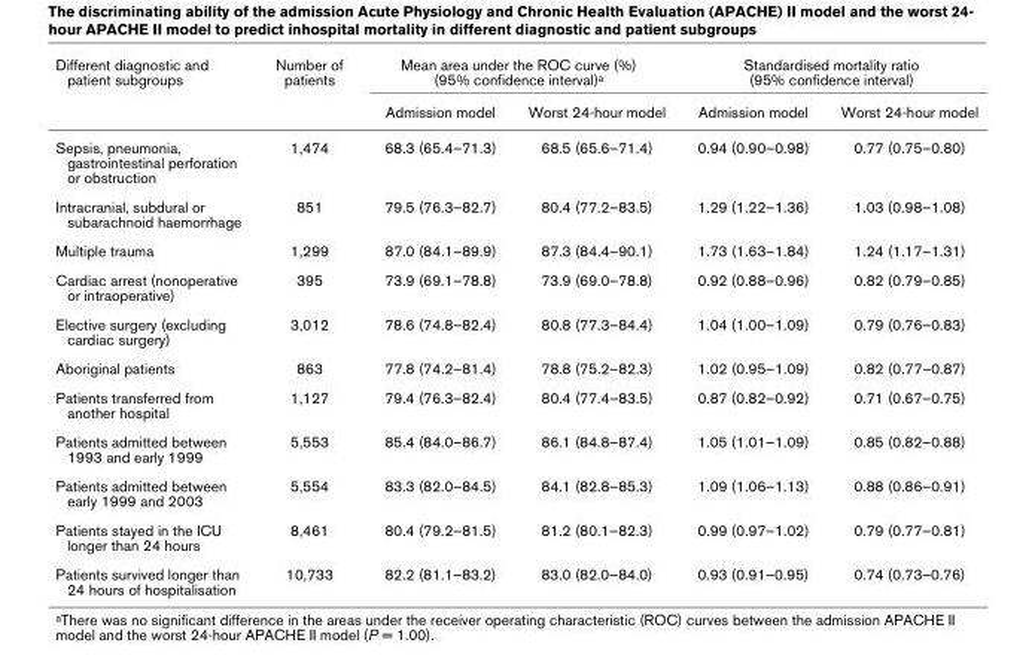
<table><thead><tr><td rowspan="2">Different diagnostic and patient subgroups</td><td rowspan="2">Number of patients</td><td colspan="2">Mean area under the ROC curve (%) (95% confidence interval)a</td><td colspan="2">Standardised mortality ratio (95% confidence interval)</td></tr><tr><td>Admission model</td><td>Worst 24-hour model</td><td>Admission model</td><td>Worst 24-hour model</td></tr></thead><tbody><tr><td>Sepsis, pneumonia, gastrointestinal perforation or obstruction</td><td>1,474</td><td>68.3 (65.4–71.3)</td><td>68.5 (65.6–71.4)</td><td>0.94 (0.90–0.98)</td><td>0.77 (0.75–0.80)</td></tr><tr><td>Intracranial, subdural or subarachnoid haemorrhage</td><td>851</td><td>79.5 (76.3–82.7)</td><td>80.4 (77.2–83.5)</td><td>1.29 (1.22–1.36)</td><td>1.03 (0.98–1.08)</td></tr><tr><td>Multiple trauma</td><td>1,299</td><td>87.0 (84.1–89.9)</td><td>87.3 (84.4–90.1)</td><td>1.73 (1.63–1.84)</td><td>1.24 (1.17–1.31)</td></tr><tr><td>Cardiac arrest (nonoperative or intraoperative)</td><td>395</td><td>73.9 (69.1–78.8)</td><td>73.9 (69.0–78.8)</td><td>0.92 (0.88–0.96)</td><td>0.82 (0.79–0.85)</td></tr><tr><td>Elective surgery (excluding cardiac surgery)</td><td>3,012</td><td>78.6 (74.8–82.4)</td><td>80.8 (77.3–84.4)</td><td>1.04 (1.00–1.09)</td><td>0.79 (0.76–0.83)</td></tr><tr><td>Aboriginal patients</td><td>863</td><td>77.8 (74.2–81.4)</td><td>78.8 (75.2–82.3)</td><td>1.02 (0.95–1.09)</td><td>0.82 (0.77–0.87)</td></tr><tr><td>Patients transferred from another hospital</td><td>1,127</td><td>79.4 (76.3–82.4)</td><td>80.4 (77.4–83.5)</td><td>0.87 (0.82–0.92)</td><td>0.71 (0.67–0.75)</td></tr><tr><td>Patients admitted between 1993 and early 1999</td><td>5,553</td><td>85.4 (84.0–86.7)</td><td>86.1 (84.8–87.4)</td><td>1.05 (1.01–1.09)</td><td>0.85 (0.82–0.88)</td></tr><tr><td>Patients admitted between early 1999 and 2003</td><td>5,554</td><td>83.3 (82.0–84.5)</td><td>84.1 (82.8–85.3)</td><td>1.09 (1.06–1.13)</td><td>0.88 (0.86–0.91)</td></tr><tr><td>Patients stayed in the ICU longer than 24 hours</td><td>8,461</td><td>80.4 (79.2–81.5)</td><td>81.2 (80.1–82.3)</td><td>0.99 (0.97–1.02)</td><td>0.79 (0.77–0.81)</td></tr><tr><td>Patients survived longer than 24 hours of hospitalisation</td><td>10,733</td><td>82.2 (81.1–83.2)</td><td>83.0 (82.0–84.0)</td><td>0.93 (0.91–0.95)</td><td>0.74 (0.73–0.76)</td></tr></tbody></table>